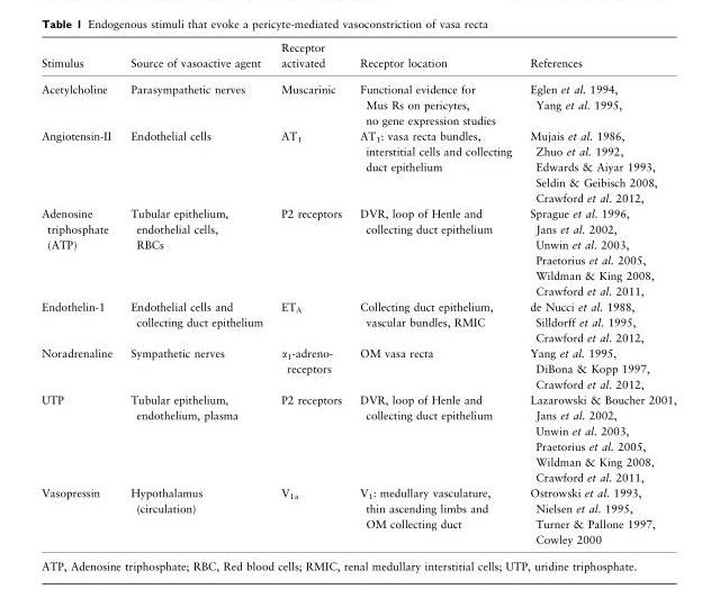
<table><thead><tr><td>Stimulus</td><td>Source of vasoactive agent</td><td>Receptor activated</td><td>Receptor location</td><td>References</td></tr></thead><tbody><tr><td>Acetylcholine</td><td>Parasympathetic nerves</td><td>Muscarinic</td><td>Functional evidence for Mus Rs on pericytes, no gene expression studies</td><td>Eglen et al. 1994, Yang et al. 1995,</td></tr><tr><td>Angiotensin-II</td><td>Endothelial cells</td><td>AT<sub>1</sub></td><td>AT<sub>1</sub>: vasa recta bundles, interstitial cells and collecting duct epithelium</td><td>Mujais et al. 1986, Zhuo et al. 1992, Edwards &amp; Aiyar 1993, Seldin &amp; Geibisch 2008, Crawford et al. 2012,</td></tr><tr><td>Adenosine triphosphate (ATP)</td><td>Tubular epithelium, endothelial cells, RBCs</td><td>P2 receptors</td><td>DVR, loop of Henle and collecting duct epithelium</td><td>Sprague et al. 1996, Jans et al. 2002, Unwin et al. 2003, Praetorius et al. 2005, Wildman &amp; King 2008, Crawford et al. 2011,</td></tr><tr><td>Endothelin-1</td><td>Endothelial cells and collecting duct epithelium</td><td>ET<sub>A</sub></td><td>Collecting duct epithelium, vascular bundles, RMIC</td><td>de Nucci et al. 1988, Silldorff et al. 1995, Crawford et al. 2012,</td></tr><tr><td>Noradrenaline</td><td>Sympathetic nerves</td><td>α<sub>1</sub>-adreno- receptors</td><td>OM vasa recta</td><td>Yang et al. 1995, DiBona &amp; Kopp 1997, Crawford et al. 2012,</td></tr><tr><td>UTP</td><td>Tubular epithelium, endothelium, plasma</td><td>P2 receptors</td><td>DVR, loop of Henle and collecting duct epithelium</td><td>Lazarowski &amp; Boucher 2001, Jans et al. 2002, Unwin et al. 2003, Praetorius et al. 2005, Wildman &amp; King 2008, Crawford et al. 2011,</td></tr><tr><td>Vasopressin</td><td>Hypothalamus (circulation)</td><td>V<sub>1a</sub></td><td>V<sub>1</sub>: medullary vasculature, thin ascending limbs and OM collecting duct</td><td>Ostrowski et al. 1993, Nielsen et al. 1995, Turner &amp; Pallone 1997, Cowley 2000</td></tr></tbody></table>